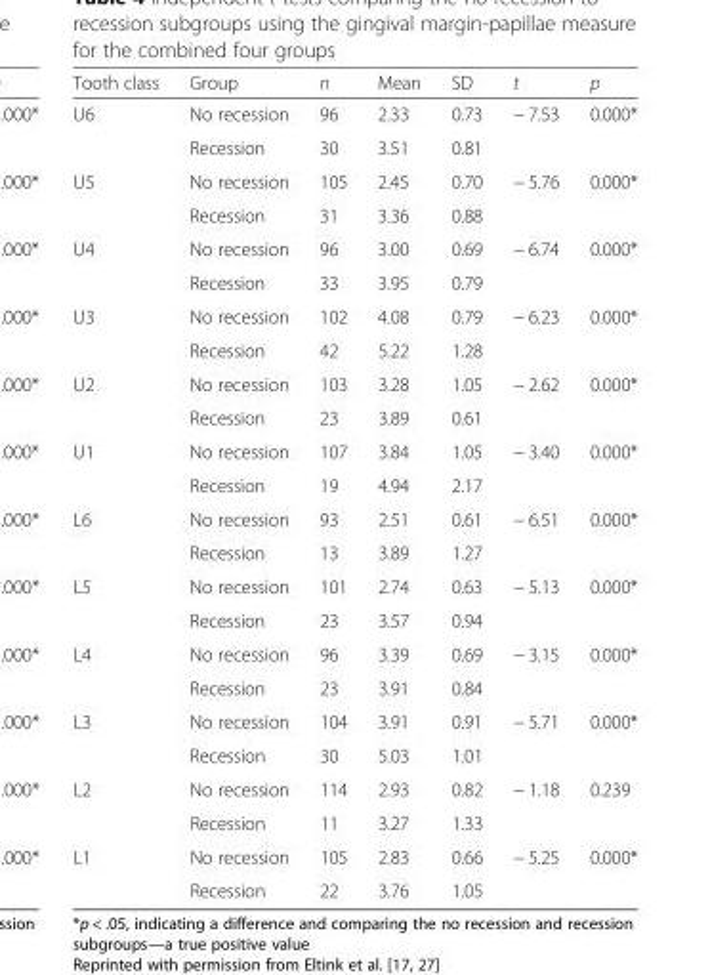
<table><thead><tr><td>Tooth class</td><td>Group</td><td>n</td><td>Mean</td><td>SD</td><td>t</td><td>p</td></tr></thead><tbody><tr><td rowspan="2">U6</td><td>No recession</td><td>96</td><td>2.33</td><td>0.73</td><td rowspan="2">− 7.53</td><td rowspan="2">0.000*</td></tr><tr><td>Recession</td><td>30</td><td>3.51</td><td>0.81</td></tr><tr><td rowspan="2">U5</td><td>No recession</td><td>105</td><td>2.45</td><td>0.70</td><td rowspan="2">− 5.76</td><td rowspan="2">0.000*</td></tr><tr><td>Recession</td><td>31</td><td>3.36</td><td>0.88</td></tr><tr><td rowspan="2">U4</td><td>No recession</td><td>96</td><td>3.00</td><td>0.69</td><td rowspan="2">− 6.74</td><td rowspan="2">0.000*</td></tr><tr><td>Recession</td><td>33</td><td>3.95</td><td>0.79</td></tr><tr><td rowspan="2">U3</td><td>No recession</td><td>102</td><td>4.08</td><td>0.79</td><td rowspan="2">− 6.23</td><td rowspan="2">0.000*</td></tr><tr><td>Recession</td><td>42</td><td>5.22</td><td>1.28</td></tr><tr><td rowspan="2">U2</td><td>No recession</td><td>103</td><td>3.28</td><td>1.05</td><td rowspan="2">− 2.62</td><td rowspan="2">0.000*</td></tr><tr><td>Recession</td><td>23</td><td>3.89</td><td>0.61</td></tr><tr><td rowspan="2">U1</td><td>No recession</td><td>107</td><td>3.84</td><td>1.05</td><td rowspan="2">− 3.40</td><td rowspan="2">0.000*</td></tr><tr><td>Recession</td><td>19</td><td>4.94</td><td>2.17</td></tr><tr><td rowspan="2">L6</td><td>No recession</td><td>93</td><td>2.51</td><td>0.61</td><td rowspan="2">− 6.51</td><td rowspan="2">0.000*</td></tr><tr><td>Recession</td><td>13</td><td>3.89</td><td>1.27</td></tr><tr><td rowspan="2">L5</td><td>No recession</td><td>101</td><td>2.74</td><td>0.63</td><td rowspan="2">− 5.13</td><td rowspan="2">0.000*</td></tr><tr><td>Recession</td><td>23</td><td>3.57</td><td>0.94</td></tr><tr><td rowspan="2">L4</td><td>No recession</td><td>96</td><td>3.39</td><td>0.69</td><td rowspan="2">− 3.15</td><td rowspan="2">0.000*</td></tr><tr><td>Recession</td><td>23</td><td>3.91</td><td>0.84</td></tr><tr><td rowspan="2">L3</td><td>No recession</td><td>104</td><td>3.91</td><td>0.91</td><td rowspan="2">− 5.71</td><td rowspan="2">0.000*</td></tr><tr><td>Recession</td><td>30</td><td>5.03</td><td>1.01</td></tr><tr><td rowspan="2">L2</td><td>No recession</td><td>114</td><td>2.93</td><td>0.82</td><td rowspan="2">− 1.18</td><td rowspan="2">0.239</td></tr><tr><td>Recession</td><td>11</td><td>3.27</td><td>1.33</td></tr><tr><td rowspan="2">L1</td><td>No recession</td><td>105</td><td>2.83</td><td>0.66</td><td rowspan="2">− 5.25</td><td rowspan="2">0.000*</td></tr><tr><td>Recession</td><td>22</td><td>3.76</td><td>1.05</td></tr></tbody></table>